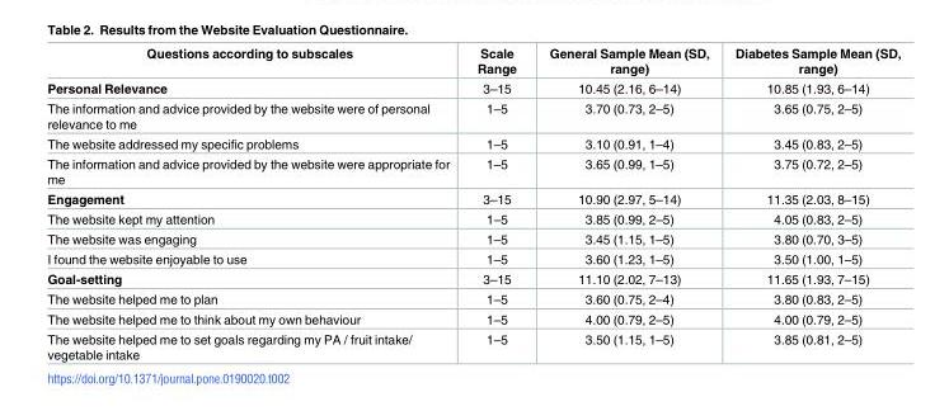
<table><thead><tr><td>Questions according to subscales</td><td>Scale Range</td><td>General Sample Mean (SD, range)</td><td>Diabetes Sample Mean (SD, range)</td></tr></thead><tbody><tr><td>Personal Relevance</td><td>3–15</td><td>10.45 (2.16, 6–14)</td><td>10.85 (1.93, 6–14)</td></tr><tr><td>The information and advice provided by the website were of personal relevance to me</td><td>1–5</td><td>3.70 (0.73, 2–5)</td><td>3.65 (0.75, 2–5)</td></tr><tr><td>The website addressed my specific problems</td><td>1–5</td><td>3.10 (0.91, 1–4)</td><td>3.45 (0.83, 2–5)</td></tr><tr><td>The information and advice provided by the website were appropriate for me</td><td>1–5</td><td>3.65 (0.99, 1–5)</td><td>3.75 (0.72, 2–5)</td></tr><tr><td>Engagement</td><td>3–15</td><td>10.90 (2.97, 5–14)</td><td>11.35 (2.03, 8–15)</td></tr><tr><td>The website kept my attention</td><td>1–5</td><td>3.85 (0.99, 2–5)</td><td>4.05 (0.83, 2–5)</td></tr><tr><td>The website was engaging</td><td>1–5</td><td>3.45 (1.15, 1–5)</td><td>3.80 (0.70, 3–5)</td></tr><tr><td>I found the website enjoyable to use</td><td>1–5</td><td>3.60 (1.23, 1–5)</td><td>3.50 (1.00, 1–5)</td></tr><tr><td>Goal-setting</td><td>3–15</td><td>11.10 (2.02, 7–13)</td><td>11.65 (1.93, 7–15)</td></tr><tr><td>The website helped me to plan</td><td>1–5</td><td>3.60 (0.75, 2–4)</td><td>3.80 (0.83, 2–5)</td></tr><tr><td>The website helped me to think about my own behaviour</td><td>1–5</td><td>4.00 (0.79, 2–5)</td><td>4.00 (0.79, 2–5)</td></tr><tr><td>The website helped me to set goals regarding my PA / fruit intake/ vegetable intake</td><td>1–5</td><td>3.50 (1.15, 1–5)</td><td>3.85 (0.81, 2–5)</td></tr></tbody></table>